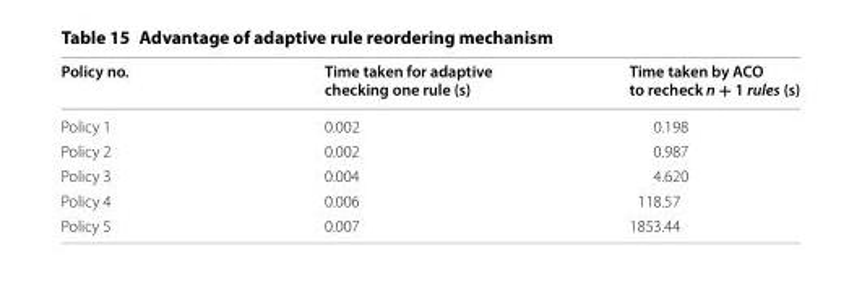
<table><thead><tr><td>Policy no.</td><td>Time taken for adaptive checking one rule (s)</td><td>Time taken by ACO to recheck n + 1 rules (s)</td></tr></thead><tbody><tr><td>Policy 1</td><td>0.002</td><td>0.198</td></tr><tr><td>Policy 2</td><td>0.002</td><td>0.987</td></tr><tr><td>Policy 3</td><td>0.004</td><td>4.620</td></tr><tr><td>Policy 4</td><td>0.006</td><td>118.57</td></tr><tr><td>Policy 5</td><td>0.007</td><td>1853.44</td></tr></tbody></table>